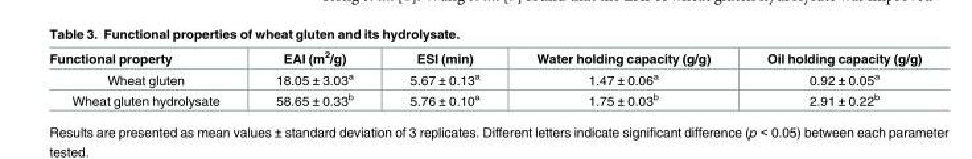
<table><thead><tr><td>Functional property</td><td>EAI (m<sup>2</sup>/g)</td><td>ESI (min)</td><td>Water holding capacity (g/g)</td><td>Oil holding capacity (g/g)</td></tr></thead><tbody><tr><td>Wheat gluten</td><td>18.05 ± 3.03<sup>a</sup></td><td>5.67 ± 0.13<sup>a</sup></td><td>1.47 ± 0.06<sup>a</sup></td><td>0.92 ± 0.05<sup>a</sup></td></tr><tr><td>Wheat gluten hydrolysate</td><td>58.65 ± 0.33<sup>b</sup></td><td>5.76 ± 0.10<sup>a</sup></td><td>1.75 ± 0.03<sup>b</sup></td><td>2.91 ± 0.22<sup>b</sup></td></tr></tbody></table>